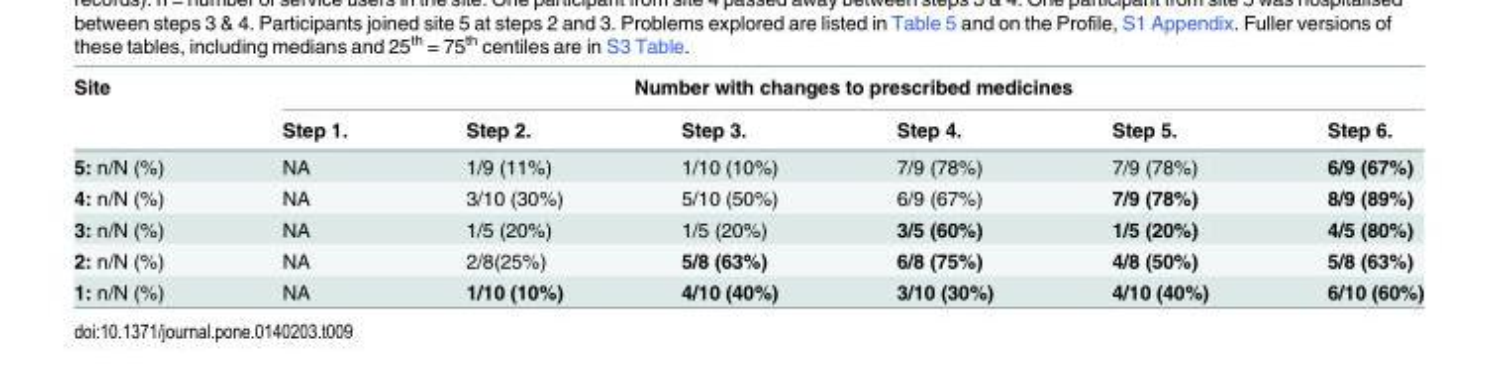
<table><thead><tr><td rowspan="2">Site</td><td colspan="6">Number with changes to prescribed medicines</td></tr><tr><td>Step 1.</td><td>Step 2.</td><td>Step 3.</td><td>Step 4.</td><td>Step 5.</td><td>Step 6.</td></tr></thead><tbody><tr><td>5: n/N (%)</td><td>NA</td><td>1/9 (11%)</td><td>1/10 (10%)</td><td>7/9 (78%)</td><td>7/9 (78%)</td><td>6/9 (67%)</td></tr><tr><td>4: n/N (%)</td><td>NA</td><td>3/10 (30%)</td><td>5/10 (50%)</td><td>6/9 (67%)</td><td>7/9 (78%)</td><td>8/9 (89%)</td></tr><tr><td>3: n/N (%)</td><td>NA</td><td>1/5 (20%)</td><td>1/5 (20%)</td><td>3/5 (60%)</td><td>1/5 (20%)</td><td>4/5 (80%)</td></tr><tr><td>2: n/N (%)</td><td>NA</td><td>2/8(25%)</td><td>5/8 (63%)</td><td>6/8 (75%)</td><td>4/8 (50%)</td><td>5/8 (63%)</td></tr><tr><td>1: n/N (%)</td><td>NA</td><td>1/10 (10%)</td><td>4/10 (40%)</td><td>3/10 (30%)</td><td>4/10 (40%)</td><td>6/10 (60%)</td></tr></tbody></table>